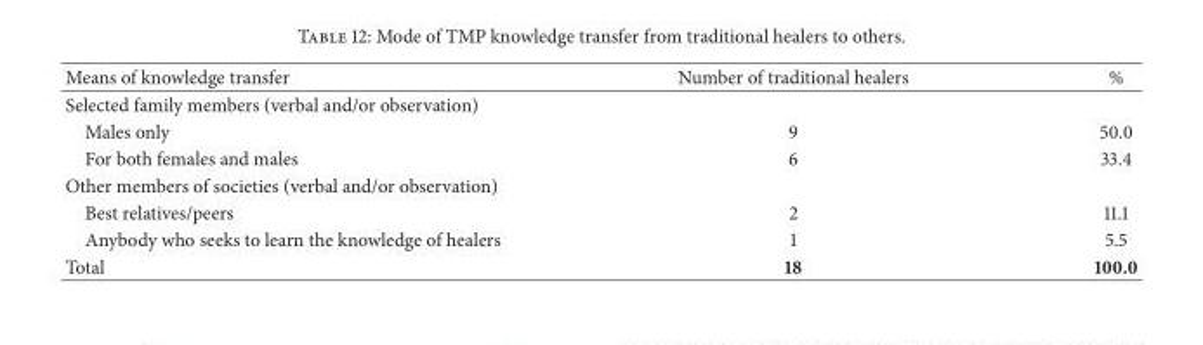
<table><thead><tr><td>Means of knowledge transfer</td><td>Number of traditional healers</td><td>%</td></tr></thead><tbody><tr><td colspan="3">Selected family members (verbal and/or observation)</td></tr><tr><td>Males only</td><td>9</td><td>50.0</td></tr><tr><td>For both females and males</td><td>6</td><td>33.4</td></tr><tr><td colspan="3">Other members of societies (verbal and/or observation)</td></tr><tr><td>Best relatives/peers</td><td>2</td><td>11.1</td></tr><tr><td>Anybody who seeks to learn the knowledge of healers</td><td>1</td><td>5.5</td></tr><tr><td>Total</td><td>18</td><td>100.0</td></tr></tbody></table>